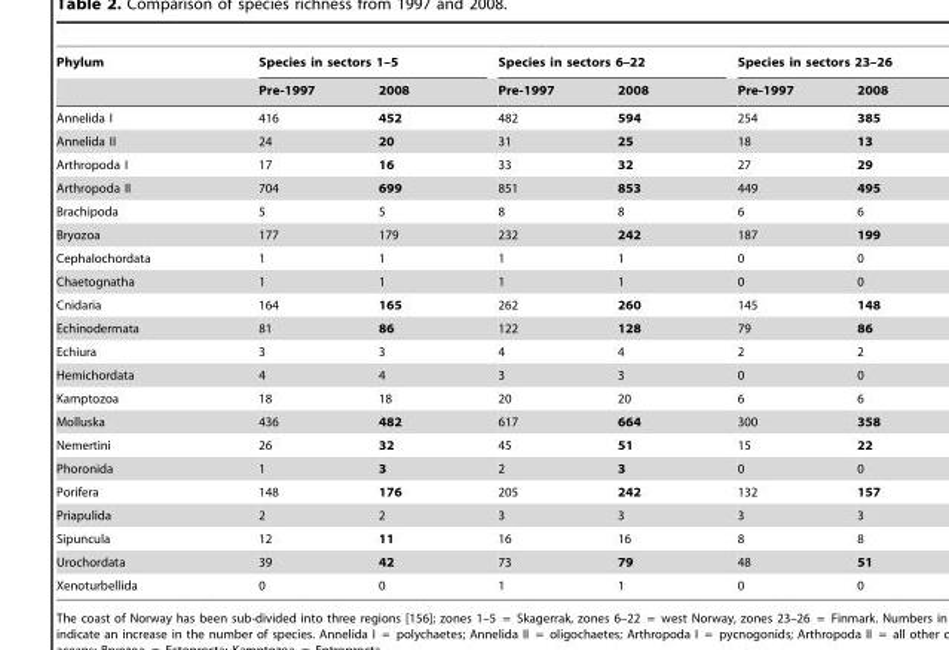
<table><thead><tr><td rowspan="2">Phylum</td><td colspan="2">Species in sectors 1–5</td><td colspan="2">Species in sectors 6–22</td><td colspan="2">Species in sectors 23–26</td></tr><tr><td>Pre-1997</td><td>2008</td><td>Pre-1997</td><td>2008</td><td>Pre-1997</td><td>2008</td></tr></thead><tbody><tr><td>Annelida I</td><td>416</td><td>452</td><td>482</td><td>594</td><td>254</td><td>385</td></tr><tr><td>Annelida II</td><td>24</td><td>20</td><td>31</td><td>25</td><td>18</td><td>13</td></tr><tr><td>Arthropoda I</td><td>17</td><td>16</td><td>33</td><td>32</td><td>27</td><td>29</td></tr><tr><td>Arthropoda II</td><td>704</td><td>699</td><td>851</td><td>853</td><td>449</td><td>495</td></tr><tr><td>Brachipoda</td><td>5</td><td>5</td><td>8</td><td>8</td><td>6</td><td>6</td></tr><tr><td>Bryozoa</td><td>177</td><td>179</td><td>232</td><td>242</td><td>187</td><td>199</td></tr><tr><td>Cephalochordata</td><td>1</td><td>1</td><td>1</td><td>1</td><td>0</td><td>0</td></tr><tr><td>Chaetognatha</td><td>1</td><td>1</td><td>1</td><td>1</td><td>0</td><td>0</td></tr><tr><td>Cnidaria</td><td>164</td><td>165</td><td>262</td><td>260</td><td>145</td><td>148</td></tr><tr><td>Echinodermata</td><td>81</td><td>86</td><td>122</td><td>128</td><td>79</td><td>86</td></tr><tr><td>Echiura</td><td>3</td><td>3</td><td>4</td><td>4</td><td>2</td><td>2</td></tr><tr><td>Hemichordata</td><td>4</td><td>4</td><td>3</td><td>3</td><td>0</td><td>0</td></tr><tr><td>Kamptozoa</td><td>18</td><td>18</td><td>20</td><td>20</td><td>6</td><td>6</td></tr><tr><td>Molluska</td><td>436</td><td>482</td><td>617</td><td>664</td><td>300</td><td>358</td></tr><tr><td>Nemertini</td><td>26</td><td>32</td><td>45</td><td>51</td><td>15</td><td>22</td></tr><tr><td>Phoronida</td><td>1</td><td>3</td><td>2</td><td>3</td><td>0</td><td>0</td></tr><tr><td>Porifera</td><td>148</td><td>176</td><td>205</td><td>242</td><td>132</td><td>157</td></tr><tr><td>Priapulida</td><td>2</td><td>2</td><td>3</td><td>3</td><td>3</td><td>3</td></tr><tr><td>Sipuncula</td><td>12</td><td>11</td><td>16</td><td>16</td><td>8</td><td>8</td></tr><tr><td>Urochordata</td><td>39</td><td>42</td><td>73</td><td>79</td><td>48</td><td>51</td></tr><tr><td>Xenoturbellida</td><td>0</td><td>0</td><td>1</td><td>1</td><td>0</td><td>0</td></tr></tbody></table>